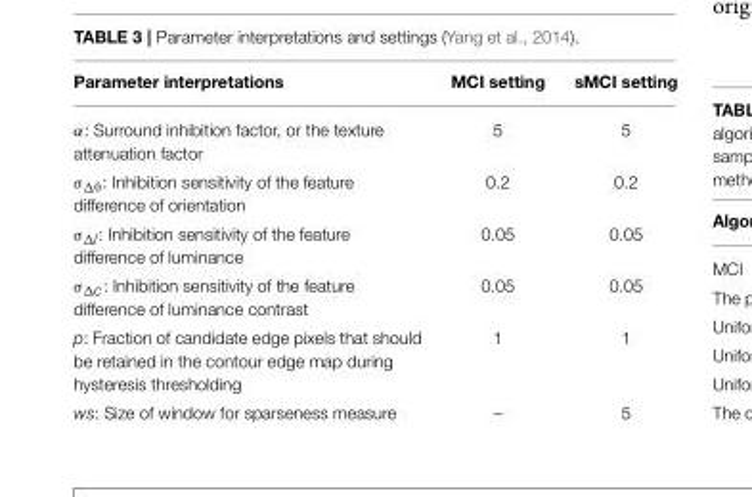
<table><thead><tr><td>Parameter interpretations</td><td>MCI setting</td><td>sMCI setting</td></tr></thead><tbody><tr><td>α: Surround inhibition factor, or the texture attenuation factor</td><td>5</td><td>5</td></tr><tr><td>σ<sub>Δθ</sub>: Inhibition sensitivity of the feature difference of orientation</td><td>0.2</td><td>0.2</td></tr><tr><td>σ<sub>Δl</sub>: Inhibition sensitivity of the feature difference of luminance</td><td>0.05</td><td>0.05</td></tr><tr><td>σ<sub>Δc</sub>: Inhibition sensitivity of the feature difference of luminance contrast</td><td>0.05</td><td>0.05</td></tr><tr><td>p: Fraction of candidate edge pixels that should be retained in the contour edge map during hysteresis thresholding</td><td>1</td><td>1</td></tr><tr><td>ws: Size of window for sparseness measure</td><td>–</td><td>5</td></tr></tbody></table>